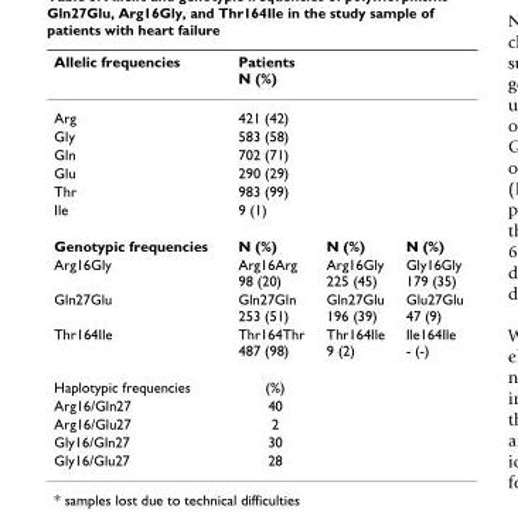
<table><thead><tr><td>Allelic frequencies</td><td>Patients N (%)</td><td></td><td></td></tr></thead><tbody><tr><td>Arg</td><td>421 (42)</td><td></td><td></td></tr><tr><td>Gly</td><td>583 (58)</td><td></td><td></td></tr><tr><td>Gln</td><td>702 (71)</td><td></td><td></td></tr><tr><td>Glu</td><td>290 (29)</td><td></td><td></td></tr><tr><td>Thr</td><td>983 (99)</td><td></td><td></td></tr><tr><td>Ile</td><td>9 (1)</td><td></td><td></td></tr><tr><td>Genotypic frequencies</td><td>N (%)</td><td>N (%)</td><td>N (%)</td></tr><tr><td>Arg16Gly</td><td>Arg16Arg 98 (20)</td><td>Arg16Gly 225 (45)</td><td>Gly16Gly 179 (35)</td></tr><tr><td>Gln27Glu</td><td>Gln27Gln 253 (51)</td><td>Gln27Glu 196 (39)</td><td>Glu27Glu 47 (9)</td></tr><tr><td>Thr164Ile</td><td>Thr164Thr 487 (98)</td><td>Thr164Ile 9 (2)</td><td>Ile164Ile - (-)</td></tr><tr><td>Haplotypic frequencies</td><td>(%)</td><td></td><td></td></tr><tr><td>Arg16/Gln27</td><td>40</td><td></td><td></td></tr><tr><td>Arg16/Glu27</td><td>2</td><td></td><td></td></tr><tr><td>Gly16/Gln27</td><td>30</td><td></td><td></td></tr><tr><td>Gly16/Glu27</td><td>28</td><td></td><td></td></tr></tbody></table>